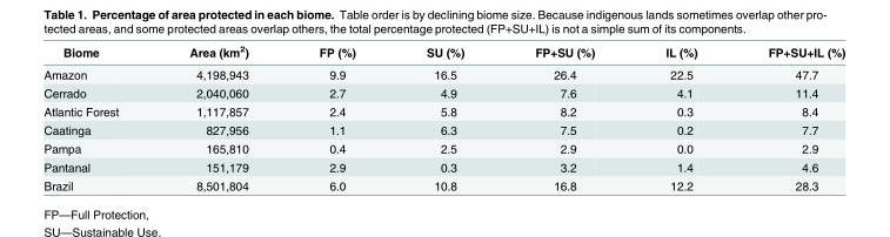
<table><thead><tr><td>Biome</td><td>Area (km<sup>2</sup>)</td><td>FP (%)</td><td>SU (%)</td><td>FP+SU (%)</td><td>IL (%)</td><td>FP+SU+IL (%)</td></tr></thead><tbody><tr><td>Amazon</td><td>4,198,943</td><td>9.9</td><td>16.5</td><td>26.4</td><td>22.5</td><td>47.7</td></tr><tr><td>Cerrado</td><td>2,040,060</td><td>2.7</td><td>4.9</td><td>7.6</td><td>4.1</td><td>11.4</td></tr><tr><td>Atlantic Forest</td><td>1,117,857</td><td>2.4</td><td>5.8</td><td>8.2</td><td>0.3</td><td>8.4</td></tr><tr><td>Caatinga</td><td>827,956</td><td>1.1</td><td>6.3</td><td>7.5</td><td>0.2</td><td>7.7</td></tr><tr><td>Pampa</td><td>165,810</td><td>0.4</td><td>2.5</td><td>2.9</td><td>0.0</td><td>2.9</td></tr><tr><td>Pantanal</td><td>151,179</td><td>2.9</td><td>0.3</td><td>3.2</td><td>1.4</td><td>4.6</td></tr><tr><td>Brazil</td><td>8,501,804</td><td>6.0</td><td>10.8</td><td>16.8</td><td>12.2</td><td>28.3</td></tr></tbody></table>